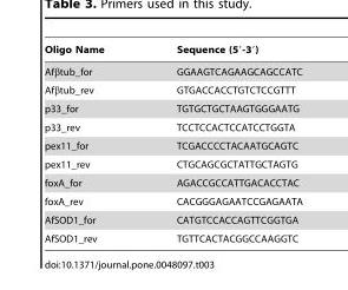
<table><thead><tr><td>Oligo Name</td><td>Sequence (5′-3′)</td></tr></thead><tbody><tr><td>Afβtub_for</td><td>GGAAGTCAGAAGCAGCCATC</td></tr><tr><td>Afβtub_rev</td><td>GTGACCACCTGTCTCCGTTT</td></tr><tr><td>p33_for</td><td>TGTGCTGCTAAGTGGGAATG</td></tr><tr><td>p33_rev</td><td>TCCTCCACTCCATCCTGGTA</td></tr><tr><td>pex11_for</td><td>TCGACCCCTACAATGCAGTC</td></tr><tr><td>pex11_rev</td><td>CTGCAGCGCTATTGCTAGTG</td></tr><tr><td>foxA_for</td><td>AGACCGCCATTGACACCTAC</td></tr><tr><td>foxA_rev</td><td>CACGGGAGAATCCGAGAATA</td></tr><tr><td>AfSOD1_for</td><td>CATGTCCACCAGTTCGGTGA</td></tr><tr><td>AfSOD1_rev</td><td>TGTTCACTACGGCCAAGGTC</td></tr></tbody></table>